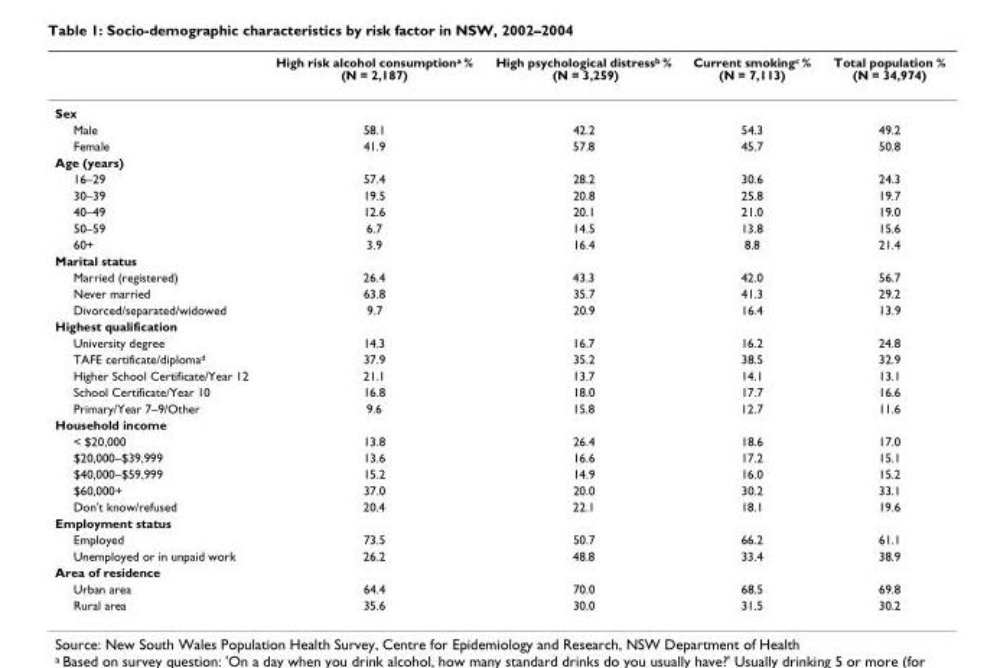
<table><thead><tr><td></td><td>High risk alcohol consumption<sup>a</sup> % (N = 2,187)</td><td>High psychological distress<sup>b</sup> % (N = 3,259)</td><td>Current smoking<sup>c</sup> % (N = 7,113)</td><td>Total population % (N = 34,974)</td></tr></thead><tbody><tr><td colspan="5">Sex</td></tr><tr><td>Male</td><td>58.1</td><td>42.2</td><td>54.3</td><td>49.2</td></tr><tr><td>Female</td><td>41.9</td><td>57.8</td><td>45.7</td><td>50.8</td></tr><tr><td colspan="5">Age (years)</td></tr><tr><td>16–29</td><td>57.4</td><td>28.2</td><td>30.6</td><td>24.3</td></tr><tr><td>30–39</td><td>19.5</td><td>20.8</td><td>25.8</td><td>19.7</td></tr><tr><td>40–49</td><td>12.6</td><td>20.1</td><td>21.0</td><td>19.0</td></tr><tr><td>50–59</td><td>6.7</td><td>14.5</td><td>13.8</td><td>15.6</td></tr><tr><td>60+</td><td>3.9</td><td>16.4</td><td>8.8</td><td>21.4</td></tr><tr><td colspan="5">Marital status</td></tr><tr><td>Married (registered)</td><td>26.4</td><td>43.3</td><td>42.0</td><td>56.7</td></tr><tr><td>Never married</td><td>63.8</td><td>35.7</td><td>41.3</td><td>29.2</td></tr><tr><td>Divorced/separated/widowed</td><td>9.7</td><td>20.9</td><td>16.4</td><td>13.9</td></tr><tr><td colspan="5">Highest qualification</td></tr><tr><td>University degree</td><td>14.3</td><td>16.7</td><td>16.2</td><td>24.8</td></tr><tr><td>TAFE certificate/diploma<sup>d</sup></td><td>37.9</td><td>35.2</td><td>38.5</td><td>32.9</td></tr><tr><td>Higher School Certificate/Year 12</td><td>21.1</td><td>13.7</td><td>14.1</td><td>13.1</td></tr><tr><td>School Certificate/Year 10</td><td>16.8</td><td>18.0</td><td>17.7</td><td>16.6</td></tr><tr><td>Primary/Year 7–9/Other</td><td>9.6</td><td>15.8</td><td>12.7</td><td>11.6</td></tr><tr><td colspan="5">Household income</td></tr><tr><td>&lt; $20,000</td><td>13.8</td><td>26.4</td><td>18.6</td><td>17.0</td></tr><tr><td>$20,000–$39,999</td><td>13.6</td><td>16.6</td><td>17.2</td><td>15.1</td></tr><tr><td>$40,000–$59,999</td><td>15.2</td><td>14.9</td><td>16.0</td><td>15.2</td></tr><tr><td>$60,000+</td><td>37.0</td><td>20.0</td><td>30.2</td><td>33.1</td></tr><tr><td>Don&#x27;t know/refused</td><td>20.4</td><td>22.1</td><td>18.1</td><td>19.6</td></tr><tr><td colspan="5">Employment status</td></tr><tr><td>Employed</td><td>73.5</td><td>50.7</td><td>66.2</td><td>61.1</td></tr><tr><td>Unemployed or in unpaid work</td><td>26.2</td><td>48.8</td><td>33.4</td><td>38.9</td></tr><tr><td colspan="5">Area of residence</td></tr><tr><td>Urban area</td><td>64.4</td><td>70.0</td><td>68.5</td><td>69.8</td></tr><tr><td>Rural area</td><td>35.6</td><td>30.0</td><td>31.5</td><td>30.2</td></tr></tbody></table>